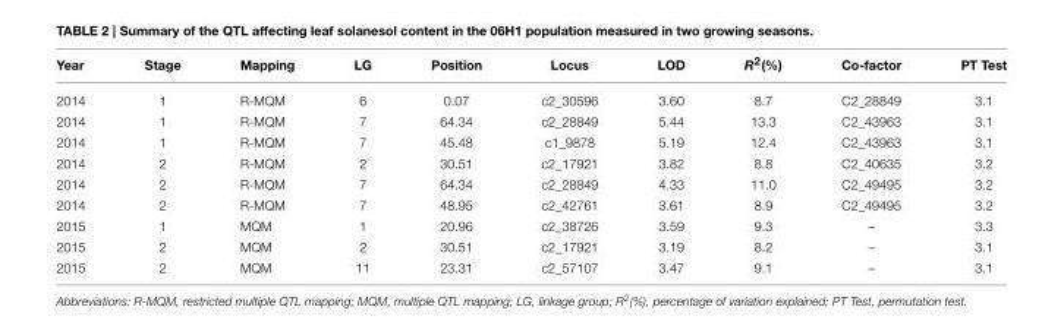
<table><thead><tr><td>Year</td><td>Stage</td><td>Mapping</td><td>LG</td><td>Position</td><td>Locus</td><td>LOD</td><td>R<sup>2</sup>(%)</td><td>Co-factor</td><td>PT Test</td></tr></thead><tbody><tr><td>2014</td><td>1</td><td>R-MQM</td><td>6</td><td>0.07</td><td>c2_30596</td><td>3.60</td><td>8.7</td><td>C2_28849</td><td>3.1</td></tr><tr><td>2014</td><td>1</td><td>R-MQM</td><td>7</td><td>64.34</td><td>c2_28849</td><td>5.44</td><td>13.3</td><td>C2_43963</td><td>3.1</td></tr><tr><td>2014</td><td>1</td><td>R-MQM</td><td>7</td><td>45.48</td><td>c1_9878</td><td>5.19</td><td>12.4</td><td>C2_43963</td><td>3.1</td></tr><tr><td>2014</td><td>2</td><td>R-MQM</td><td>2</td><td>30.51</td><td>c2_17921</td><td>3.82</td><td>8.8</td><td>C2_40635</td><td>3.2</td></tr><tr><td>2014</td><td>2</td><td>R-MQM</td><td>7</td><td>64.34</td><td>c2_28849</td><td>4.33</td><td>11.0</td><td>C2_49495</td><td>3.2</td></tr><tr><td>2014</td><td>2</td><td>R-MQM</td><td>7</td><td>48.95</td><td>c2_42761</td><td>3.61</td><td>8.9</td><td>C2_49495</td><td>3.2</td></tr><tr><td>2015</td><td>1</td><td>MQM</td><td>1</td><td>20.96</td><td>c2_38726</td><td>3.59</td><td>9.3</td><td>–</td><td>3.3</td></tr><tr><td>2015</td><td>2</td><td>MQM</td><td>2</td><td>30.51</td><td>c2_17921</td><td>3.19</td><td>8.2</td><td>–</td><td>3.1</td></tr><tr><td>2015</td><td>2</td><td>MQM</td><td>11</td><td>23.31</td><td>c2_57107</td><td>3.47</td><td>9.1</td><td>–</td><td>3.1</td></tr></tbody></table>